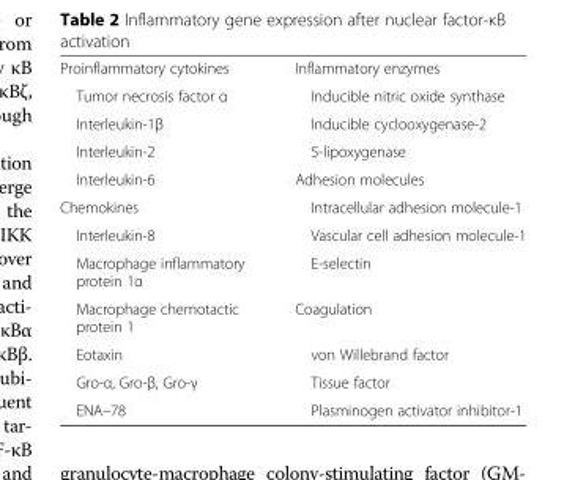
<table><tbody><tr><td>Proinflammatory cytokines</td><td>Inflammatory enzymes</td></tr><tr><td>Tumor necrosis factor α</td><td>Inducible nitric oxide synthase</td></tr><tr><td>Interleukin-1β</td><td>Inducible cyclooxygenase-2</td></tr><tr><td>Interleukin-2</td><td>5-lipoxygenase</td></tr><tr><td>Interleukin-6</td><td>Adhesion molecules</td></tr><tr><td>Chemokines</td><td>Intracellular adhesion molecule-1</td></tr><tr><td>Interleukin-8</td><td>Vascular cell adhesion molecule-1</td></tr><tr><td>Macrophage inflammatory protein 1α</td><td>E-selectin</td></tr><tr><td>Macrophage chemotactic protein 1</td><td>Coagulation</td></tr><tr><td>Eotaxin</td><td>von Willebrand factor</td></tr><tr><td>Gro-α, Gro-β, Gro-γ</td><td>Tissue factor</td></tr><tr><td>ΕΝΑ–78</td><td>Plasminogen activator inhibitor-1</td></tr></tbody></table>